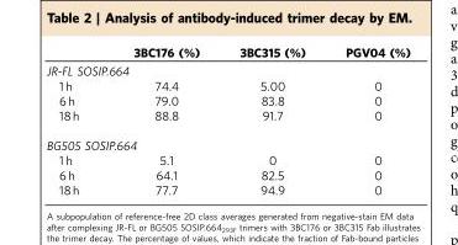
<table><thead><tr><td></td><td>3BC176 (%)</td><td>3BC315 (%)</td><td>PGV04 (%)</td></tr></thead><tbody><tr><td colspan="4">JR-FL SOSIP.664</td></tr><tr><td>1 h</td><td>74.4</td><td>5.00</td><td>0</td></tr><tr><td>6 h</td><td>79.0</td><td>83.8</td><td>0</td></tr><tr><td>18 h</td><td>88.8</td><td>91.7</td><td>0</td></tr><tr><td colspan="4">BG505 SOSIP.664</td></tr><tr><td>1 h</td><td>5.1</td><td>0</td><td>0</td></tr><tr><td>6 h</td><td>64.1</td><td>82.5</td><td>0</td></tr><tr><td>18 h</td><td>77.7</td><td>94.9</td><td>0</td></tr></tbody></table>